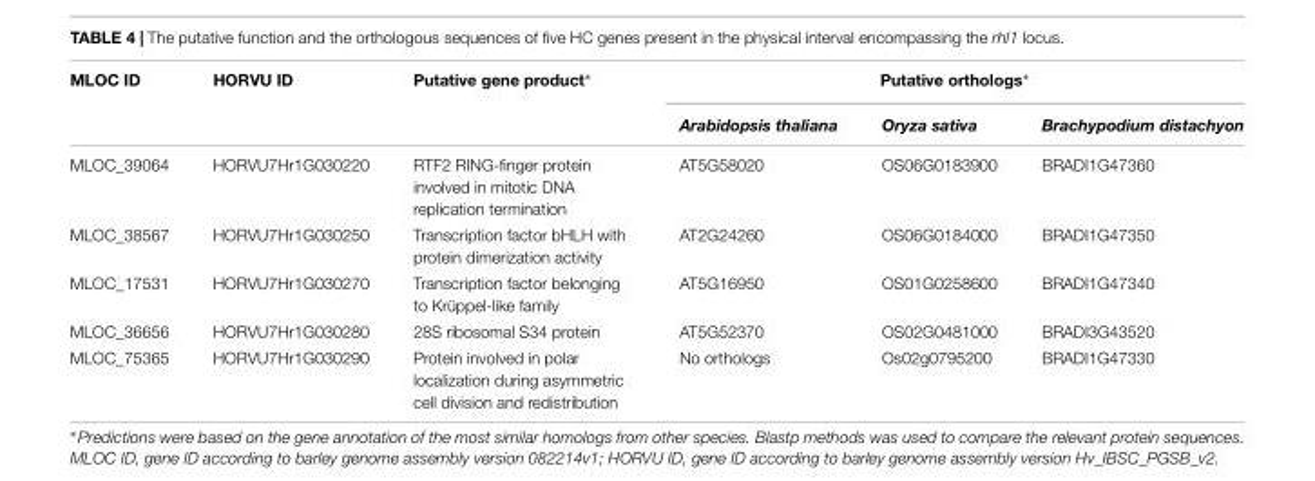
<table><thead><tr><td rowspan="2">MLOC ID</td><td rowspan="2">HORVU ID</td><td rowspan="2">Putative gene product∗</td><td colspan="3">Putative orthologs∗</td></tr><tr><td>Arabidopsis thaliana</td><td>Oryza sativa</td><td>Brachypodium distachyon</td></tr></thead><tbody><tr><td>MLOC_39064</td><td>HORVU7Hr1G030220</td><td>RTF2 RING-finger protein involved in mitotic DNA replication termination</td><td>AT5G58020</td><td>OS06G0183900</td><td>BRADI1G47360</td></tr><tr><td>MLOC_38567</td><td>HORVU7Hr1G030250</td><td>Transcription factor bHLH with protein dimerization activity</td><td>AT2G24260</td><td>OS06G0184000</td><td>BRADI1G47350</td></tr><tr><td>MLOC_17531</td><td>HORVU7Hr1G030270</td><td>Transcription factor belonging to Krüppel-like family</td><td>AT5G16950</td><td>OS01G0258600</td><td>BRADI1G47340</td></tr><tr><td>MLOC_36656</td><td>HORVU7Hr1G030280</td><td>28S ribosomal S34 protein</td><td>AT5G52370</td><td>OS02G0481000</td><td>BRADI3G43520</td></tr><tr><td>MLOC_75365</td><td>HORVU7Hr1G030290</td><td>Protein involved in polar localization during asymmetric cell division and redistribution</td><td>No orthologs</td><td>Os02g0795200</td><td>BRADI1G47330</td></tr></tbody></table>